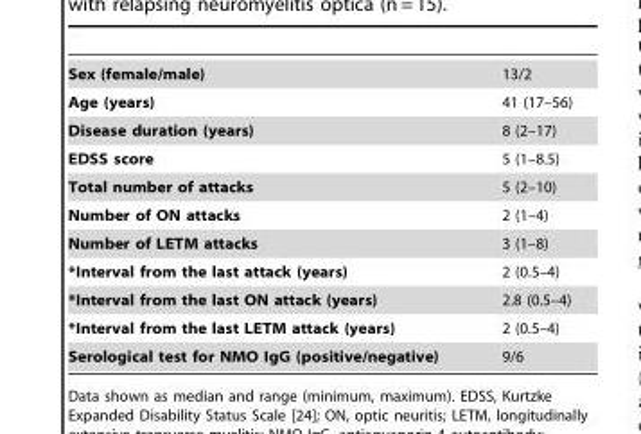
<table><tbody><tr><td>Sex (female/male)</td><td>13/2</td></tr><tr><td>Age (years)</td><td>41 (17–56)</td></tr><tr><td>Disease duration (years)</td><td>8 (2–17)</td></tr><tr><td>EDSS score</td><td>5 (1–8.5)</td></tr><tr><td>Total number of attacks</td><td>5 (2–10)</td></tr><tr><td>Number of ON attacks</td><td>2 (1–4)</td></tr><tr><td>Number of LETM attacks</td><td>3 (1–8)</td></tr><tr><td>*Interval from the last attack (years)</td><td>2 (0.5–4)</td></tr><tr><td>*Interval from the last ON attack (years)</td><td>2.8 (0.5–4)</td></tr><tr><td>*Interval from the last LETM attack (years)</td><td>2 (0.5–4)</td></tr><tr><td>Serological test for NMO IgG (positive/negative)</td><td>9/6</td></tr></tbody></table>